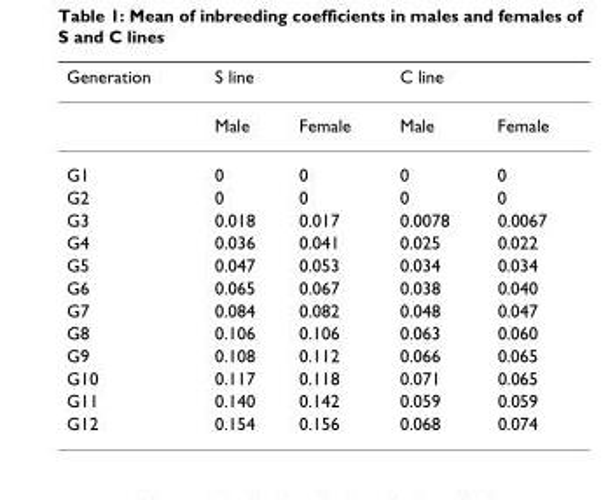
<table><thead><tr><td>Generation</td><td>S line</td><td></td><td>C line</td><td></td></tr></thead><tbody><tr><td></td><td>Male</td><td>Female</td><td>Male</td><td>Female</td></tr><tr><td>G1</td><td>0</td><td>0</td><td>0</td><td>0</td></tr><tr><td>G2</td><td>0</td><td>0</td><td>0</td><td>0</td></tr><tr><td>G3</td><td>0.018</td><td>0.017</td><td>0.0078</td><td>0.0067</td></tr><tr><td>G4</td><td>0.036</td><td>0.041</td><td>0.025</td><td>0.022</td></tr><tr><td>G5</td><td>0.047</td><td>0.053</td><td>0.034</td><td>0.034</td></tr><tr><td>G6</td><td>0.065</td><td>0.067</td><td>0.038</td><td>0.040</td></tr><tr><td>G7</td><td>0.084</td><td>0.082</td><td>0.048</td><td>0.047</td></tr><tr><td>G8</td><td>0.106</td><td>0.106</td><td>0.063</td><td>0.060</td></tr><tr><td>G9</td><td>0.108</td><td>0.112</td><td>0.066</td><td>0.065</td></tr><tr><td>G10</td><td>0.117</td><td>0.118</td><td>0.071</td><td>0.065</td></tr><tr><td>G11</td><td>0.140</td><td>0.142</td><td>0.059</td><td>0.059</td></tr><tr><td>G12</td><td>0.154</td><td>0.156</td><td>0.068</td><td>0.074</td></tr></tbody></table>